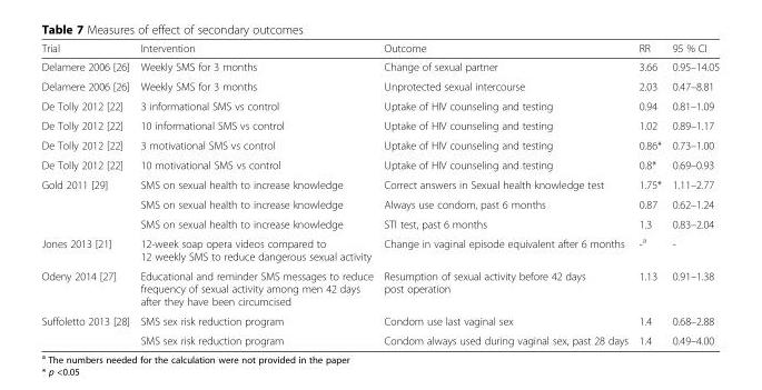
<table><thead><tr><td>Trial</td><td>Intervention</td><td>Outcome</td><td>RR</td><td>95 % CI</td></tr></thead><tbody><tr><td>Delamere 2006 [26]</td><td>Weekly SMS for 3 months</td><td>Change of sexual partner</td><td>3.66</td><td>0.95–14.05</td></tr><tr><td>Delamere 2006 [26]</td><td>Weekly SMS for 3 months</td><td>Unprotected sexual intercourse</td><td>2.03</td><td>0.47–8.81</td></tr><tr><td>De Tolly 2012 [22]</td><td>3 informational SMS vs control</td><td>Uptake of HIV counseling and testing</td><td>0.94</td><td>0.81–1.09</td></tr><tr><td>De Tolly 2012 [22]</td><td>10 informational SMS vs control</td><td>Uptake of HIV counseling and testing</td><td>1.02</td><td>0.89–1.17</td></tr><tr><td>De Tolly 2012 [22]</td><td>3 motivational SMS vs control</td><td>Uptake of HIV counseling and testing</td><td>0.86*</td><td>0.73–1.00</td></tr><tr><td>De Tolly 2012 [22]</td><td>10 motivational SMS vs control</td><td>Uptake of HIV counseling and testing</td><td>0.8*</td><td>0.69–0.93</td></tr><tr><td rowspan="3">Gold 2011 [29]</td><td>SMS on sexual health to increase knowledge</td><td>Correct answers in Sexual health knowledge test</td><td>1.75*</td><td>1.11–2.77</td></tr><tr><td>SMS on sexual health to increase knowledge</td><td>Always use condom, past 6 months</td><td>0.87</td><td>0.62–1.24</td></tr><tr><td>SMS on sexual health to increase knowledge</td><td>STI test, past 6 months</td><td>1.3</td><td>0.83–2.04</td></tr><tr><td>Jones 2013 [21]</td><td>12-week soap opera videos compared to 12 weekly SMS to reduce dangerous sexual activity</td><td>Change in vaginal episode equivalent after 6 months</td><td>-<sup>a</sup></td><td>-</td></tr><tr><td>Odeny 2014 [27]</td><td>Educational and reminder SMS messages to reduce frequency of sexual activity among men 42 days after they have been circumcised</td><td>Resumption of sexual activity before 42 days post operation</td><td>1.13</td><td>0.91–1.38</td></tr><tr><td rowspan="2">Suffoletto 2013 [28]</td><td>SMS sex risk reduction program</td><td>Condom use last vaginal sex</td><td>1.4</td><td>0.68–2.88</td></tr><tr><td>SMS sex risk reduction program</td><td>Condom always used during vaginal sex, past 28 days</td><td>1.4</td><td>0.49–4.00</td></tr></tbody></table>